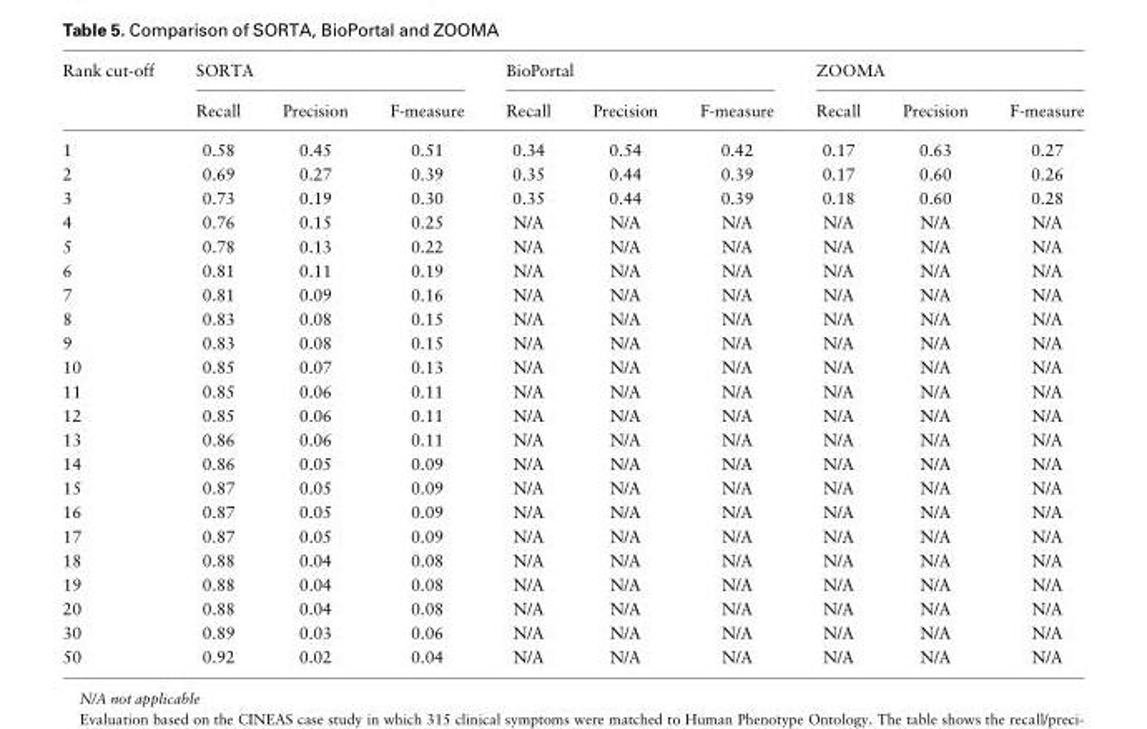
<table><thead><tr><td rowspan="2">Rank cut-off</td><td colspan="3">SORTA</td><td colspan="3">BioPortal</td><td colspan="3">ZOOMA</td></tr><tr><td>Recall</td><td>Precision</td><td>F-measure</td><td>Recall</td><td>Precision</td><td>F-measure</td><td>Recall</td><td>Precision</td><td>F-measure</td></tr></thead><tbody><tr><td>1</td><td>0.58</td><td>0.45</td><td>0.51</td><td>0.34</td><td>0.54</td><td>0.42</td><td>0.17</td><td>0.63</td><td>0.27</td></tr><tr><td>2</td><td>0.69</td><td>0.27</td><td>0.39</td><td>0.35</td><td>0.44</td><td>0.39</td><td>0.17</td><td>0.60</td><td>0.26</td></tr><tr><td>3</td><td>0.73</td><td>0.19</td><td>0.30</td><td>0.35</td><td>0.44</td><td>0.39</td><td>0.18</td><td>0.60</td><td>0.28</td></tr><tr><td>4</td><td>0.76</td><td>0.15</td><td>0.25</td><td>N/A</td><td>N/A</td><td>N/A</td><td>N/A</td><td>N/A</td><td>N/A</td></tr><tr><td>5</td><td>0.78</td><td>0.13</td><td>0.22</td><td>N/A</td><td>N/A</td><td>N/A</td><td>N/A</td><td>N/A</td><td>N/A</td></tr><tr><td>6</td><td>0.81</td><td>0.11</td><td>0.19</td><td>N/A</td><td>N/A</td><td>N/A</td><td>N/A</td><td>N/A</td><td>N/A</td></tr><tr><td>7</td><td>0.81</td><td>0.09</td><td>0.16</td><td>N/A</td><td>N/A</td><td>N/A</td><td>N/A</td><td>N/A</td><td>N/A</td></tr><tr><td>8</td><td>0.83</td><td>0.08</td><td>0.15</td><td>N/A</td><td>N/A</td><td>N/A</td><td>N/A</td><td>N/A</td><td>N/A</td></tr><tr><td>9</td><td>0.83</td><td>0.08</td><td>0.15</td><td>N/A</td><td>N/A</td><td>N/A</td><td>N/A</td><td>N/A</td><td>N/A</td></tr><tr><td>10</td><td>0.85</td><td>0.07</td><td>0.13</td><td>N/A</td><td>N/A</td><td>N/A</td><td>N/A</td><td>N/A</td><td>N/A</td></tr><tr><td>11</td><td>0.85</td><td>0.06</td><td>0.11</td><td>N/A</td><td>N/A</td><td>N/A</td><td>N/A</td><td>N/A</td><td>N/A</td></tr><tr><td>12</td><td>0.85</td><td>0.06</td><td>0.11</td><td>N/A</td><td>N/A</td><td>N/A</td><td>N/A</td><td>N/A</td><td>N/A</td></tr><tr><td>13</td><td>0.86</td><td>0.06</td><td>0.11</td><td>N/A</td><td>N/A</td><td>N/A</td><td>N/A</td><td>N/A</td><td>N/A</td></tr><tr><td>14</td><td>0.86</td><td>0.05</td><td>0.09</td><td>N/A</td><td>N/A</td><td>N/A</td><td>N/A</td><td>N/A</td><td>N/A</td></tr><tr><td>15</td><td>0.87</td><td>0.05</td><td>0.09</td><td>N/A</td><td>N/A</td><td>N/A</td><td>N/A</td><td>N/A</td><td>N/A</td></tr><tr><td>16</td><td>0.87</td><td>0.05</td><td>0.09</td><td>N/A</td><td>N/A</td><td>N/A</td><td>N/A</td><td>N/A</td><td>N/A</td></tr><tr><td>17</td><td>0.87</td><td>0.05</td><td>0.09</td><td>N/A</td><td>N/A</td><td>N/A</td><td>N/A</td><td>N/A</td><td>N/A</td></tr><tr><td>18</td><td>0.88</td><td>0.04</td><td>0.08</td><td>N/A</td><td>N/A</td><td>N/A</td><td>N/A</td><td>N/A</td><td>N/A</td></tr><tr><td>19</td><td>0.88</td><td>0.04</td><td>0.08</td><td>N/A</td><td>N/A</td><td>N/A</td><td>N/A</td><td>N/A</td><td>N/A</td></tr><tr><td>20</td><td>0.88</td><td>0.04</td><td>0.08</td><td>N/A</td><td>N/A</td><td>N/A</td><td>N/A</td><td>N/A</td><td>N/A</td></tr><tr><td>30</td><td>0.89</td><td>0.03</td><td>0.06</td><td>N/A</td><td>N/A</td><td>N/A</td><td>N/A</td><td>N/A</td><td>N/A</td></tr><tr><td>50</td><td>0.92</td><td>0.02</td><td>0.04</td><td>N/A</td><td>N/A</td><td>N/A</td><td>N/A</td><td>N/A</td><td>N/A</td></tr></tbody></table>